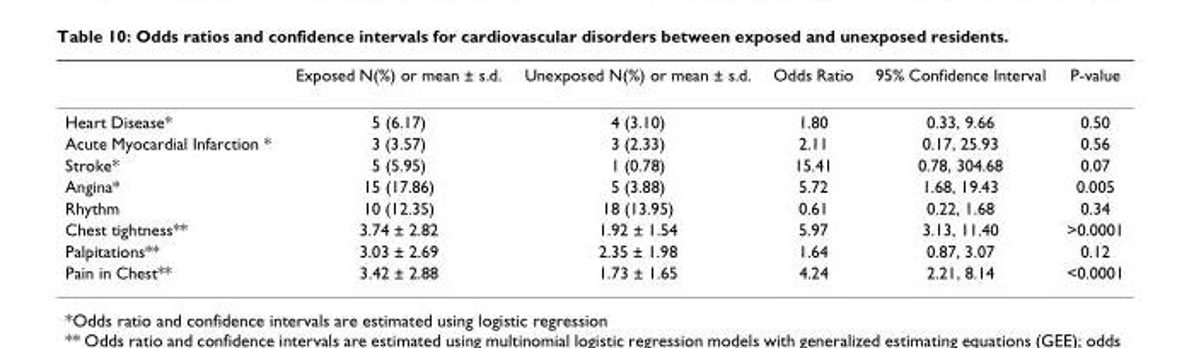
<table><thead><tr><td></td><td>Exposed N(%) or mean ± s.d.</td><td>Unexposed N(%) or mean ± s.d.</td><td>Odds Ratio</td><td>95% Confidence Interval</td><td>P-value</td></tr></thead><tbody><tr><td>Heart Disease*</td><td>5 (6.17)</td><td>4 (3.10)</td><td>1.80</td><td>0.33, 9.66</td><td>0.50</td></tr><tr><td>Acute Myocardial Infarction *</td><td>3 (3.57)</td><td>3 (2.33)</td><td>2.11</td><td>0.17, 25.93</td><td>0.56</td></tr><tr><td>Stroke*</td><td>5 (5.95)</td><td>1 (0.78)</td><td>15.41</td><td>0.78, 304.68</td><td>0.07</td></tr><tr><td>Angina*</td><td>15 (17.86)</td><td>5 (3.88)</td><td>5.72</td><td>1.68, 19.43</td><td>0.005</td></tr><tr><td>Rhythm</td><td>10 (12.35)</td><td>18 (13.95)</td><td>0.61</td><td>0.22, 1.68</td><td>0.34</td></tr><tr><td>Chest tightness**</td><td>3.74 ± 2.82</td><td>1.92 ± 1.54</td><td>5.97</td><td>3.13, 11.40</td><td>&gt;0.0001</td></tr><tr><td>Palpitations**</td><td>3.03 ± 2.69</td><td>2.35 ± 1.98</td><td>1.64</td><td>0.87, 3.07</td><td>0.12</td></tr><tr><td>Pain in Chest**</td><td>3.42 ± 2.88</td><td>1.73 ± 1.65</td><td>4.24</td><td>2.21, 8.14</td><td>&lt;0.0001</td></tr></tbody></table>